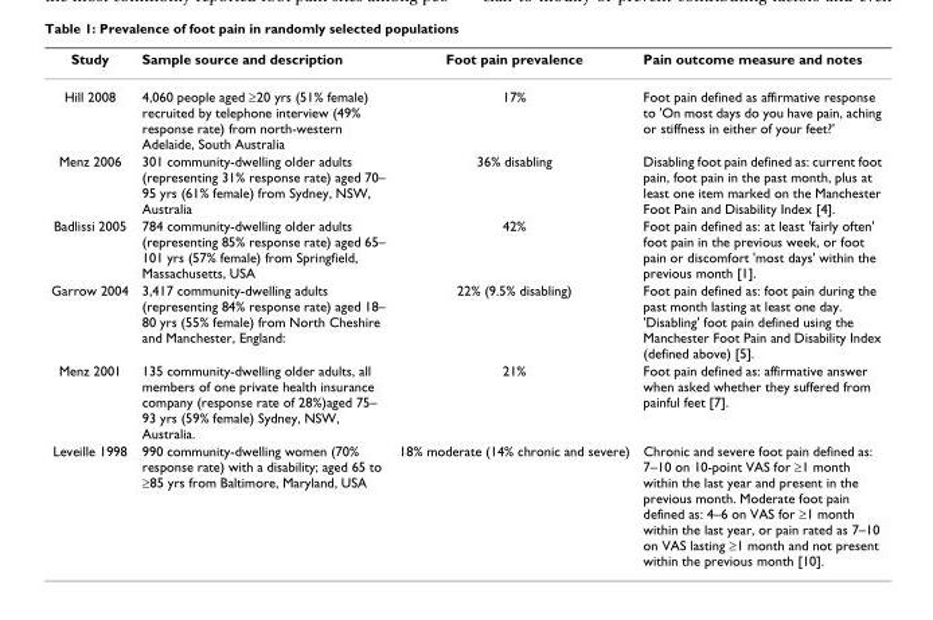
<table><thead><tr><td>Study</td><td>Sample source and description</td><td>Foot pain prevalence</td><td>Pain outcome measure and notes</td></tr></thead><tbody><tr><td>Hill 2008</td><td>4,060 people aged ≥20 yrs (51% female) recruited by telephone interview (49% response rate) from north-western Adelaide, South Australia</td><td>17%</td><td>Foot pain defined as affirmative response to &#x27;On most days do you have pain, aching or stiffness in either of your feet?&#x27;</td></tr><tr><td>Menz 2006</td><td>301 community-dwelling older adults (representing 31% response rate) aged 70– 95 yrs (61% female) from Sydney, NSW, Australia</td><td>36% disabling</td><td>Disabling foot pain defined as: current foot pain, foot pain in the past month, plus at least one item marked on the Manchester Foot Pain and Disability Index [4].</td></tr><tr><td>Badlissi 2005</td><td>784 community-dwelling older adults (representing 85% response rate) aged 65– 101 yrs (57% female) from Springfield, Massachusetts, USA</td><td>42%</td><td>Foot pain defined as: at least &#x27;fairly often&#x27; foot pain in the previous week, or foot pain or discomfort &#x27;most days&#x27; within the previous month [1].</td></tr><tr><td>Garrow 2004</td><td>3,417 community-dwelling adults (representing 84% response rate) aged 18– 80 yrs (55% female) from North Cheshire and Manchester, England:</td><td>22% (9.5% disabling)</td><td>Foot pain defined as: foot pain during the past month lasting at least one day. &#x27;Disabling&#x27; foot pain defined using the Manchester Foot Pain and Disability Index (defined above) [5].</td></tr><tr><td>Menz 2001</td><td>135 community-dwelling older adults, all members of one private health insurance company (response rate of 28%)aged 75– 93 yrs (59% female) Sydney, NSW, Australia.</td><td>21%</td><td>Foot pain defined as: affirmative answer when asked whether they suffered from painful feet [7].</td></tr><tr><td>Leveille 1998</td><td>990 community-dwelling women (70% response rate) with a disability; aged 65 to ≥85 yrs from Baltimore, Maryland, USA</td><td>18% moderate (14% chronic and severe)</td><td>Chronic and severe foot pain defined as: 7–10 on 10-point VAS for ≥1 month within the last year and present in the previous month. Moderate foot pain defined as: 4–6 on VAS for ≥1 month within the last year, or pain rated as 7–10 on VAS lasting ≥1 month and not present within the previous month [10].</td></tr></tbody></table>